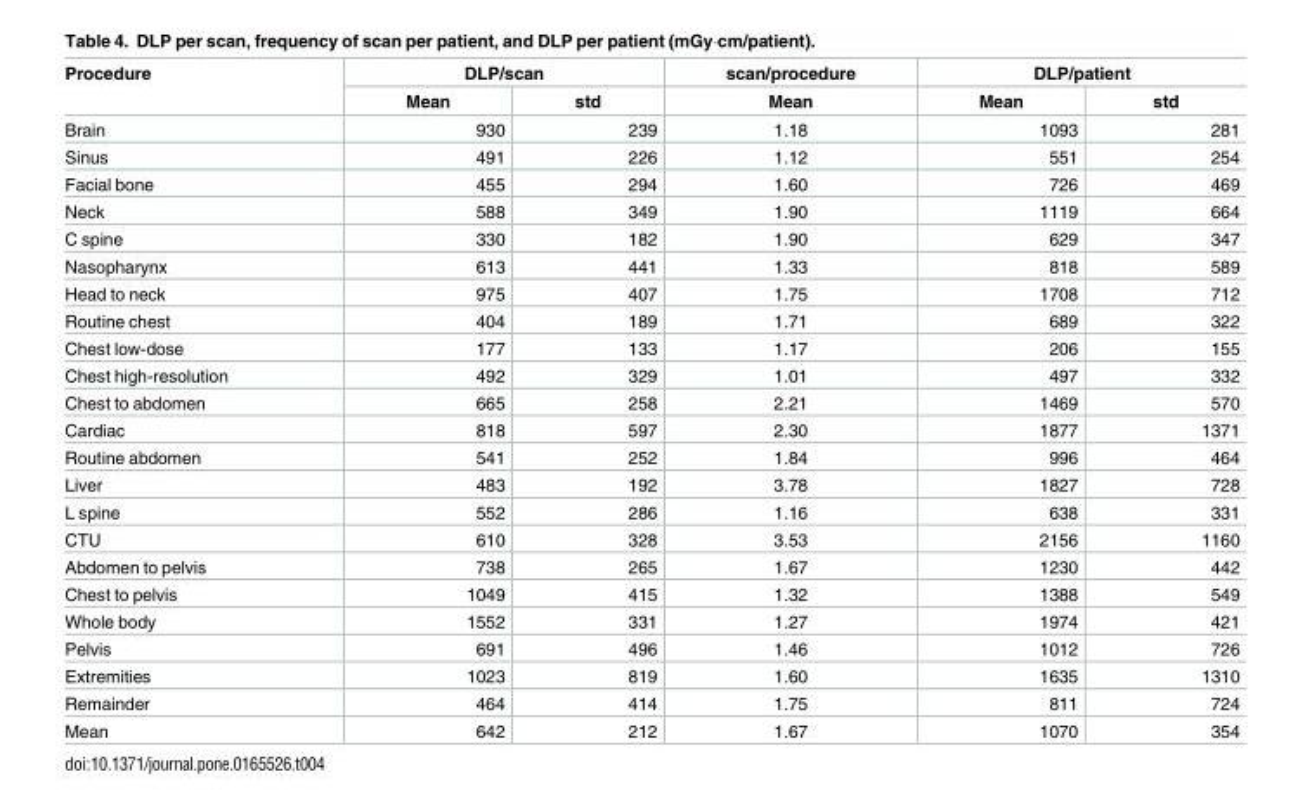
<table><thead><tr><td rowspan="2">Procedure</td><td colspan="2">DLP/scan</td><td rowspan="2">scan/procedure Mean</td><td colspan="2">DLP/patient</td></tr><tr><td>Mean</td><td>std</td><td>Mean</td><td>std</td></tr></thead><tbody><tr><td>Brain</td><td>930</td><td>239</td><td>1.18</td><td>1093</td><td>281</td></tr><tr><td>Sinus</td><td>491</td><td>226</td><td>1.12</td><td>551</td><td>254</td></tr><tr><td>Facial bone</td><td>455</td><td>294</td><td>1.60</td><td>726</td><td>469</td></tr><tr><td>Neck</td><td>588</td><td>349</td><td>1.90</td><td>1119</td><td>664</td></tr><tr><td>C spine</td><td>330</td><td>182</td><td>1.90</td><td>629</td><td>347</td></tr><tr><td>Nasopharynx</td><td>613</td><td>441</td><td>1.33</td><td>818</td><td>589</td></tr><tr><td>Head to neck</td><td>975</td><td>407</td><td>1.75</td><td>1708</td><td>712</td></tr><tr><td>Routine chest</td><td>404</td><td>189</td><td>1.71</td><td>689</td><td>322</td></tr><tr><td>Chest low-dose</td><td>177</td><td>133</td><td>1.17</td><td>206</td><td>155</td></tr><tr><td>Chest high-resolution</td><td>492</td><td>329</td><td>1.01</td><td>497</td><td>332</td></tr><tr><td>Chest to abdomen</td><td>665</td><td>258</td><td>2.21</td><td>1469</td><td>570</td></tr><tr><td>Cardiac</td><td>818</td><td>597</td><td>2.30</td><td>1877</td><td>1371</td></tr><tr><td>Routine abdomen</td><td>541</td><td>252</td><td>1.84</td><td>996</td><td>464</td></tr><tr><td>Liver</td><td>483</td><td>192</td><td>3.78</td><td>1827</td><td>728</td></tr><tr><td>L spine</td><td>552</td><td>286</td><td>1.16</td><td>638</td><td>331</td></tr><tr><td>CTU</td><td>610</td><td>328</td><td>3.53</td><td>2156</td><td>1160</td></tr><tr><td>Abdomen to pelvis</td><td>738</td><td>265</td><td>1.67</td><td>1230</td><td>442</td></tr><tr><td>Chest to pelvis</td><td>1049</td><td>415</td><td>1.32</td><td>1388</td><td>549</td></tr><tr><td>Whole body</td><td>1552</td><td>331</td><td>1.27</td><td>1974</td><td>421</td></tr><tr><td>Pelvis</td><td>691</td><td>496</td><td>1.46</td><td>1012</td><td>726</td></tr><tr><td>Extremities</td><td>1023</td><td>819</td><td>1.60</td><td>1635</td><td>1310</td></tr><tr><td>Remainder</td><td>464</td><td>414</td><td>1.75</td><td>811</td><td>724</td></tr><tr><td>Mean</td><td>642</td><td>212</td><td>1.67</td><td>1070</td><td>354</td></tr></tbody></table>